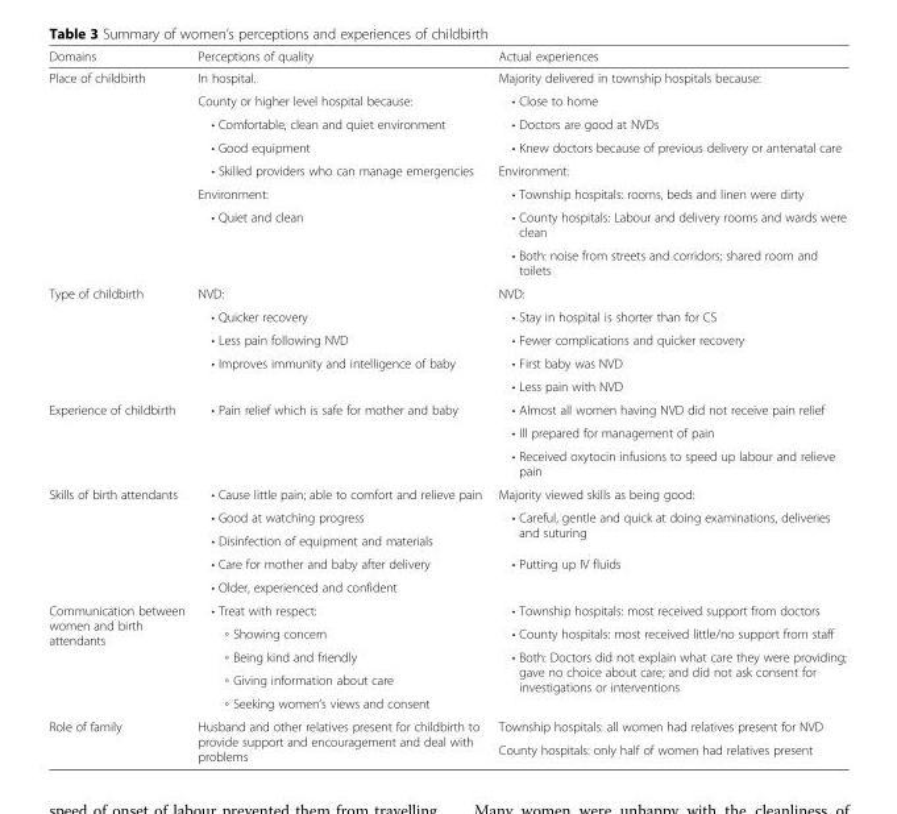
<table><thead><tr><td>Domains</td><td>Perceptions of quality</td><td>Actual experiences</td></tr></thead><tbody><tr><td rowspan="8">Place of childbirth</td><td>In hospital.</td><td>Majority delivered in township hospitals because:</td></tr><tr><td>County or higher level hospital because:</td><td>• Close to home</td></tr><tr><td>• Comfortable, clean and quiet environment</td><td>• Doctors are good at NVDs</td></tr><tr><td>• Good equipment</td><td>• Knew doctors because of previous delivery or antenatal care</td></tr><tr><td>• Skilled providers who can manage emergencies</td><td>Environment:</td></tr><tr><td>Environment:</td><td>• Township hospitals: rooms, beds and linen were dirty</td></tr><tr><td rowspan="2">• Quiet and clean</td><td>• County hospitals: Labour and delivery rooms and wards were clean</td></tr><tr><td>• Both: noise from streets and corridors; shared room and toilets</td></tr><tr><td rowspan="5">Type of childbirth</td><td>NVD:</td><td>NVD:</td></tr><tr><td>• Quicker recovery</td><td>• Stay in hospital is shorter than for CS</td></tr><tr><td>• Less pain following NVD</td><td>• Fewer complications and quicker recovery</td></tr><tr><td rowspan="2">• Improves immunity and intelligence of baby</td><td>• First baby was NVD</td></tr><tr><td>• Less pain with NVD</td></tr><tr><td rowspan="3">Experience of childbirth</td><td rowspan="3">• Pain relief which is safe for mother and baby</td><td>• Almost all women having NVD did not receive pain relief</td></tr><tr><td>• Ill prepared for management of pain</td></tr><tr><td>• Received oxytocin infusions to speed up labour and relieve pain</td></tr><tr><td rowspan="5">Skills of birth attendants</td><td>• Cause little pain; able to comfort and relieve pain</td><td>Majority viewed skills as being good:</td></tr><tr><td>• Good at watching progress</td><td rowspan="2">• Careful, gentle and quick at doing examinations, deliveries and suturing</td></tr><tr><td>• Disinfection of equipment and materials</td></tr><tr><td>• Care for mother and baby after delivery</td><td rowspan="2">• Putting up IV fluids</td></tr><tr><td>• Older, experienced and confident</td></tr><tr><td rowspan="5">Communication between women and birth attendants</td><td>• Treat with respect:</td><td>• Township hospitals: most received support from doctors</td></tr><tr><td>◦ Showing concern</td><td>• County hospitals: most received little/no support from staff</td></tr><tr><td>◦ Being kind and friendly</td><td rowspan="3">• Both: Doctors did not explain what care they were providing; gave no choice about care; and did not ask consent for investigations or interventions</td></tr><tr><td>◦ Giving information about care</td></tr><tr><td>◦ Seeking women’s views and consent</td></tr><tr><td rowspan="2">Role of family</td><td rowspan="2">Husband and other relatives present for childbirth to provide support and encouragement and deal with problems</td><td>Township hospitals: all women had relatives present for NVD</td></tr><tr><td>County hospitals: only half of women had relatives present</td></tr></tbody></table>